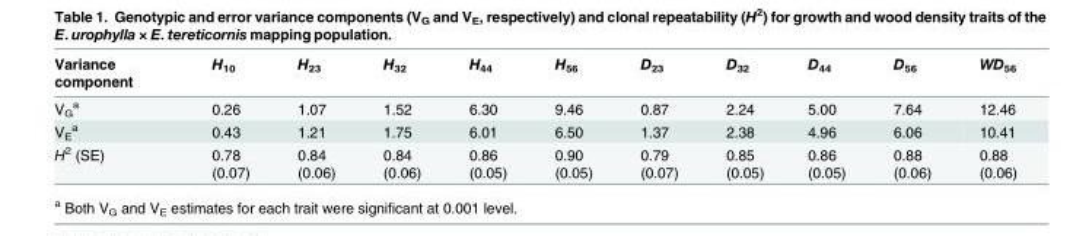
<table><thead><tr><td>Variance component</td><td>H<sub>10</sub></td><td>H<sub>23</sub></td><td>H<sub>32</sub></td><td>H<sub>44</sub></td><td>H<sub>56</sub></td><td>D<sub>23</sub></td><td>D<sub>32</sub></td><td>D<sub>44</sub></td><td>D<sub>56</sub></td><td>WD<sub>56</sub></td></tr></thead><tbody><tr><td>V<sub>G</sub> <sup>a</sup></td><td>0.26</td><td>1.07</td><td>1.52</td><td>6.30</td><td>9.46</td><td>0.87</td><td>2.24</td><td>5.00</td><td>7.64</td><td>12.46</td></tr><tr><td>V<sub>E</sub> <sup>a</sup></td><td>0.43</td><td>1.21</td><td>1.75</td><td>6.01</td><td>6.50</td><td>1.37</td><td>2.38</td><td>4.96</td><td>6.06</td><td>10.41</td></tr><tr><td>H<sup>2</sup> (SE)</td><td>0.78 (0.07)</td><td>0.84 (0.06)</td><td>0.84 (0.06)</td><td>0.86 (0.05)</td><td>0.90 (0.05)</td><td>0.79 (0.07)</td><td>0.85 (0.05)</td><td>0.86 (0.05)</td><td>0.88 (0.06)</td><td>0.88 (0.06)</td></tr></tbody></table>